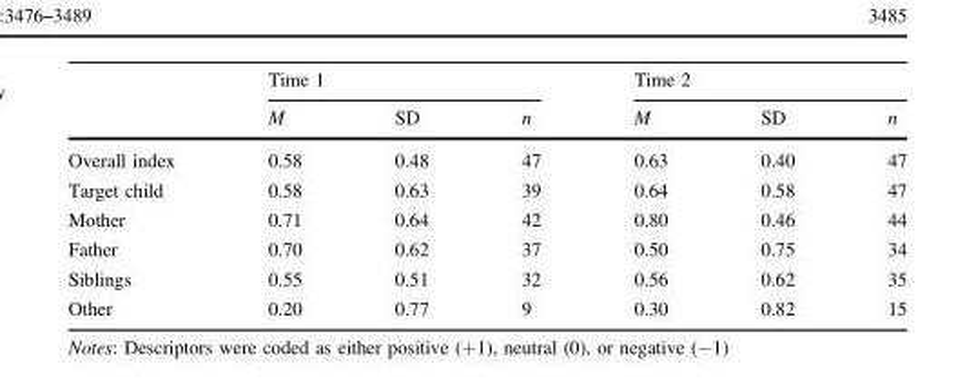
<table><thead><tr><td rowspan="2"></td><td colspan="3">Time 1</td><td colspan="3">Time 2</td></tr><tr><td>M</td><td>SD</td><td>n</td><td>M</td><td>SD</td><td>n</td></tr></thead><tbody><tr><td>Overall index</td><td>0.58</td><td>0.48</td><td>47</td><td>0.63</td><td>0.40</td><td>47</td></tr><tr><td>Target child</td><td>0.58</td><td>0.63</td><td>39</td><td>0.64</td><td>0.58</td><td>47</td></tr><tr><td>Mother</td><td>0.71</td><td>0.64</td><td>42</td><td>0.80</td><td>0.46</td><td>44</td></tr><tr><td>Father</td><td>0.70</td><td>0.62</td><td>37</td><td>0.50</td><td>0.75</td><td>34</td></tr><tr><td>Siblings</td><td>0.55</td><td>0.51</td><td>32</td><td>0.56</td><td>0.62</td><td>35</td></tr><tr><td>Other</td><td>0.20</td><td>0.77</td><td>9</td><td>0.30</td><td>0.82</td><td>15</td></tr></tbody></table>